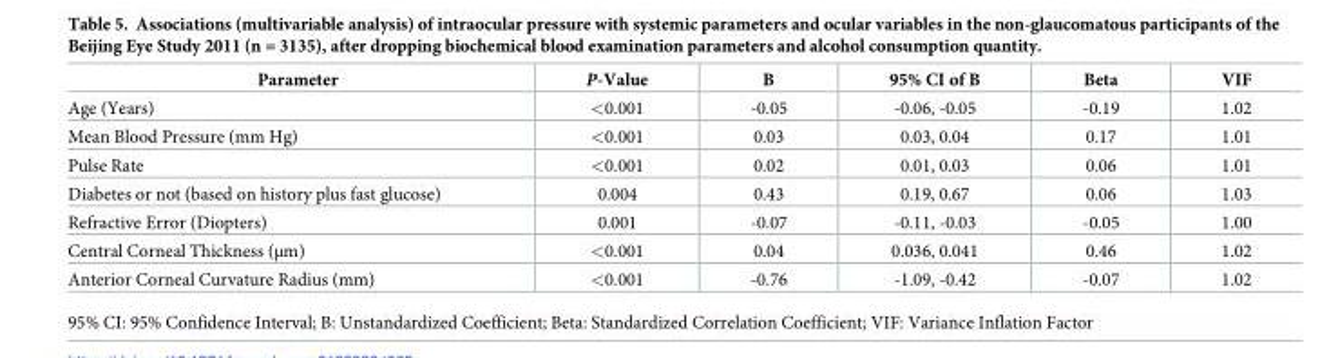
<table><thead><tr><td>Parameter</td><td>P-Value</td><td>B</td><td>95% CI of B</td><td>Beta</td><td>VIF</td></tr></thead><tbody><tr><td>Age (Years)</td><td>&lt;0.001</td><td>-0.05</td><td>-0.06, -0.05</td><td>-0.19</td><td>1.02</td></tr><tr><td>Mean Blood Pressure (mm Hg)</td><td>&lt;0.001</td><td>0.03</td><td>0.03, 0.04</td><td>0.17</td><td>1.01</td></tr><tr><td>Pulse Rate</td><td>&lt;0.001</td><td>0.02</td><td>0.01, 0.03</td><td>0.06</td><td>1.01</td></tr><tr><td>Diabetes or not (based on history plus fast glucose)</td><td>0.004</td><td>0.43</td><td>0.19, 0.67</td><td>0.06</td><td>1.03</td></tr><tr><td>Refractive Error (Diopters)</td><td>0.001</td><td>-0.07</td><td>-0.11, -0.03</td><td>-0.05</td><td>1.00</td></tr><tr><td>Central Corneal Thickness (μm)</td><td>&lt;0.001</td><td>0.04</td><td>0.036, 0.041</td><td>0.46</td><td>1.02</td></tr><tr><td>Anterior Corneal Curvature Radius (mm)</td><td>&lt;0.001</td><td>-0.76</td><td>-1.09, -0.42</td><td>-0.07</td><td>1.02</td></tr></tbody></table>